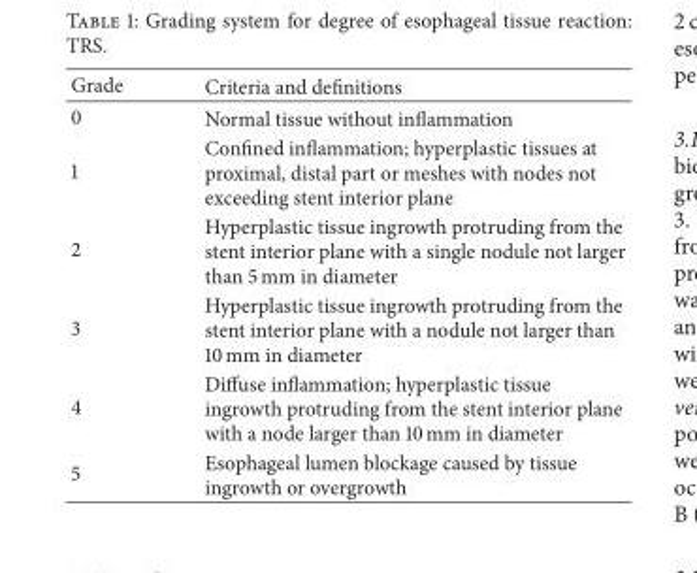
<table><thead><tr><td>Grade</td><td>Criteria and definitions</td></tr></thead><tbody><tr><td>0</td><td>Normal tissue without inflammation</td></tr><tr><td>1</td><td>Confined inflammation; hyperplastic tissues at proximal, distal part or meshes with nodes not exceeding stent interior plane</td></tr><tr><td>2</td><td>Hyperplastic tissue ingrowth protruding from the stent interior plane with a single nodule not larger than 5 mm in diameter</td></tr><tr><td>3</td><td>Hyperplastic tissue ingrowth protruding from the stent interior plane with a nodule not larger than 10 mm in diameter</td></tr><tr><td>4</td><td>Diffuse inflammation; hyperplastic tissue ingrowth protruding from the stent interior plane with a node larger than 10 mm in diameter</td></tr><tr><td>5</td><td>Esophageal lumen blockage caused by tissue ingrowth or overgrowth</td></tr></tbody></table>